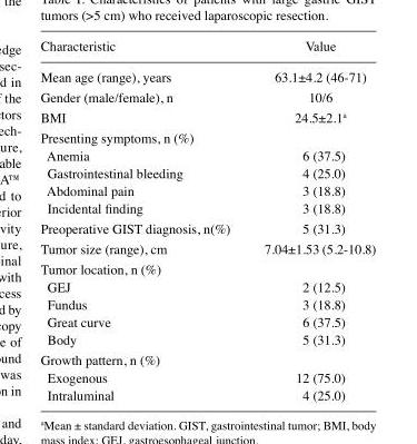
<table><thead><tr><td>Characteristic</td><td>Value</td></tr></thead><tbody><tr><td>Mean age (range), years</td><td>63.1±4.2 (46-71)</td></tr><tr><td>Gender (male/female), n</td><td>10/6</td></tr><tr><td>BMI</td><td>24.5±2.1<sup>a</sup></td></tr><tr><td colspan="2">Presenting symptoms, n (%)</td></tr><tr><td>Anemia</td><td>6 (37.5)</td></tr><tr><td>Gastrointestinal bleeding</td><td>4 (25.0)</td></tr><tr><td>Abdominal pain</td><td>3 (18.8)</td></tr><tr><td>Incidental finding</td><td>3 (18.8)</td></tr><tr><td>Preoperative GIST diagnosis, n(%)</td><td>5 (31.3)</td></tr><tr><td>Tumor size (range), cm</td><td>7.04±1.53 (5.2-10.8)</td></tr><tr><td colspan="2">Tumor location, n (%)</td></tr><tr><td>GEJ</td><td>2 (12.5)</td></tr><tr><td>Fundus</td><td>3 (18.8)</td></tr><tr><td>Great curve</td><td>6 (37.5)</td></tr><tr><td>Body</td><td>5 (31.3)</td></tr><tr><td colspan="2">Growth pattern, n (%)</td></tr><tr><td>Exogenous</td><td>12 (75.0)</td></tr><tr><td>Intraluminal</td><td>4 (25.0)</td></tr></tbody></table>